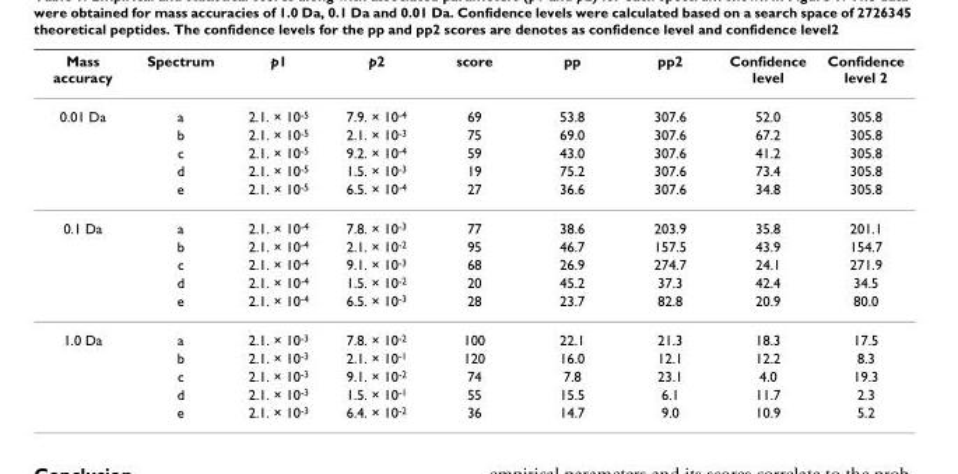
<table><thead><tr><td>Mass accuracy</td><td>Spectrum</td><td>p1</td><td>p2</td><td>score</td><td>pp</td><td>pp2</td><td>Confidence level</td><td>Confidence level 2</td></tr></thead><tbody><tr><td rowspan="5">0.01 Da</td><td>a</td><td>2.1. × 10<sup>-5</sup></td><td>7.9. × 10<sup>-4</sup></td><td>69</td><td>53.8</td><td>307.6</td><td>52.0</td><td>305.8</td></tr><tr><td>b</td><td>2.1. × 10<sup>-5</sup></td><td>2.1. × 10<sup>-3</sup></td><td>75</td><td>69.0</td><td>307.6</td><td>67.2</td><td>305.8</td></tr><tr><td>c</td><td>2.1. × 10<sup>-5</sup></td><td>9.2. × 10<sup>-4</sup></td><td>59</td><td>43.0</td><td>307.6</td><td>41.2</td><td>305.8</td></tr><tr><td>d</td><td>2.1. × 10<sup>-5</sup></td><td>1.5. × 10<sup>-3</sup></td><td>19</td><td>75.2</td><td>307.6</td><td>73.4</td><td>305.8</td></tr><tr><td>e</td><td>2.1. × 10<sup>-5</sup></td><td>6.5. × 10<sup>-4</sup></td><td>27</td><td>36.6</td><td>307.6</td><td>34.8</td><td>305.8</td></tr><tr><td rowspan="5">0.1 Da</td><td>a</td><td>2.1. × 10<sup>-4</sup></td><td>7.8. × 10<sup>-3</sup></td><td>77</td><td>38.6</td><td>203.9</td><td>35.8</td><td>201.1</td></tr><tr><td>b</td><td>2.1. × 10<sup>-4</sup></td><td>2.1. × 10<sup>-2</sup></td><td>95</td><td>46.7</td><td>157.5</td><td>43.9</td><td>154.7</td></tr><tr><td>c</td><td>2.1. × 10<sup>-4</sup></td><td>9.1. × 10<sup>-3</sup></td><td>68</td><td>26.9</td><td>274.7</td><td>24.1</td><td>271.9</td></tr><tr><td>d</td><td>2.1. × 10<sup>-4</sup></td><td>1.5. × 10<sup>-2</sup></td><td>20</td><td>45.2</td><td>37.3</td><td>42.4</td><td>34.5</td></tr><tr><td>e</td><td>2.1. × 10<sup>-4</sup></td><td>6.5. × 10<sup>-3</sup></td><td>28</td><td>23.7</td><td>82.8</td><td>20.9</td><td>80.0</td></tr><tr><td rowspan="5">1.0 Da</td><td>a</td><td>2.1. × 10<sup>-3</sup></td><td>7.8. × 10<sup>-2</sup></td><td>100</td><td>22.1</td><td>21.3</td><td>18.3</td><td>17.5</td></tr><tr><td>b</td><td>2.1. × 10<sup>-3</sup></td><td>2.1. × 10<sup>-1</sup></td><td>120</td><td>16.0</td><td>12.1</td><td>12.2</td><td>8.3</td></tr><tr><td>c</td><td>2.1. × 10<sup>-3</sup></td><td>9.1. × 10<sup>-2</sup></td><td>74</td><td>7.8</td><td>23.1</td><td>4.0</td><td>19.3</td></tr><tr><td>d</td><td>2.1. × 10<sup>-3</sup></td><td>1.5. × 10<sup>-1</sup></td><td>55</td><td>15.5</td><td>6.1</td><td>11.7</td><td>2.3</td></tr><tr><td>e</td><td>2.1. × 10<sup>-3</sup></td><td>6.4. × 10<sup>-2</sup></td><td>36</td><td>14.7</td><td>9.0</td><td>10.9</td><td>5.2</td></tr></tbody></table>